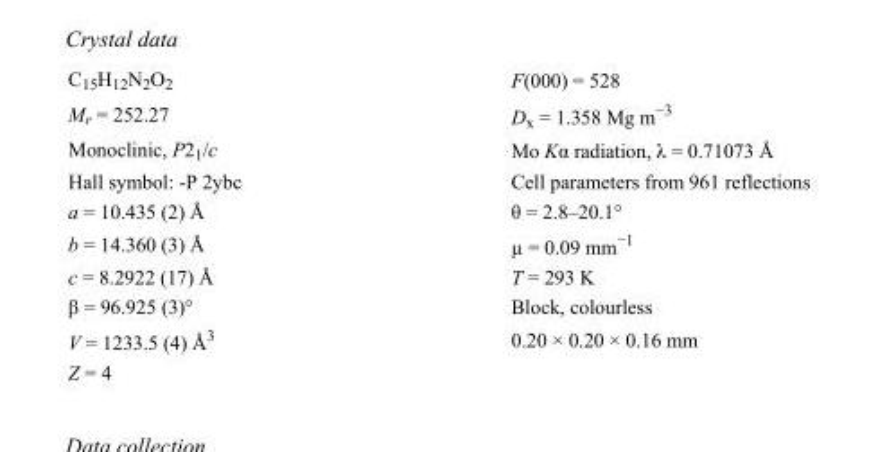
<table><tbody><tr><td>C<sub>15</sub>H<sub>12</sub>N<sub>2</sub>O<sub>2</sub></td><td>F(000) = 528</td></tr><tr><td>M<sub>r</sub> = 252.27</td><td>D<sub>x</sub> = 1.358 Mg m<sup>−3</sup></td></tr><tr><td>Monoclinic, P2<sub>1</sub>/c</td><td>Mo Kα radiation, λ = 0.71073 Å</td></tr><tr><td>Hall symbol: -P 2ybc</td><td>Cell parameters from 961 reflections</td></tr><tr><td>a = 10.435 (2) Å</td><td>θ = 2.8–20.1°</td></tr><tr><td>b = 14.360 (3) Å</td><td>µ = 0.09 mm<sup>−1</sup></td></tr><tr><td>c = 8.2922 (17) Å</td><td>T = 293 K</td></tr><tr><td>β = 96.925 (3)°</td><td>Block, colourless</td></tr><tr><td>V = 1233.5 (4) Å<sup>3</sup></td><td>0.20 × 0.20 × 0.16 mm</td></tr><tr><td>Z = 4</td><td></td></tr></tbody></table>